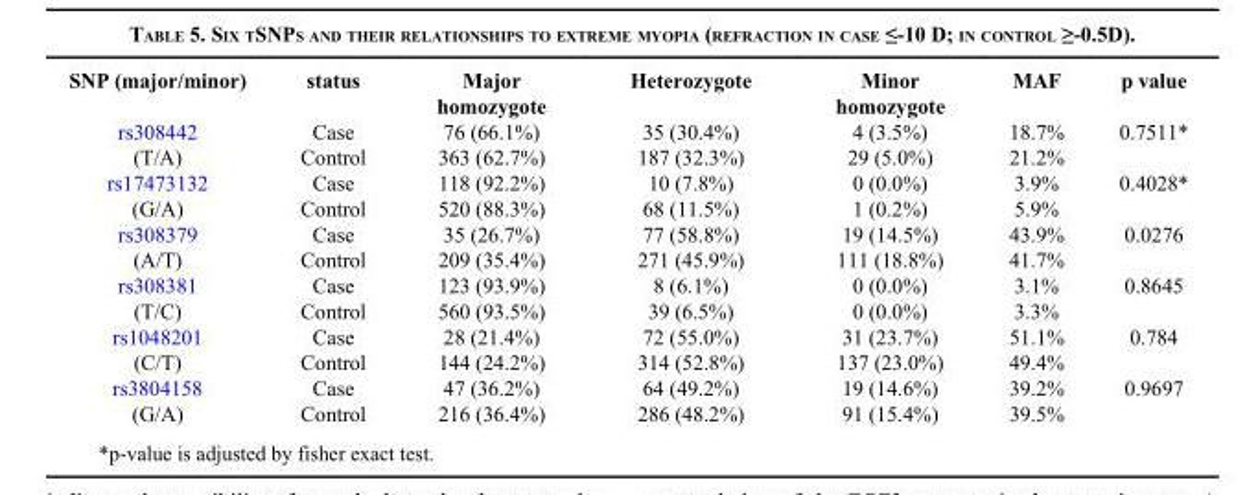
<table><thead><tr><td>SNP (major/minor)</td><td>status</td><td>Major homozygote</td><td>Heterozygote</td><td>Minor homozygote</td><td>MAF</td><td>p value</td></tr></thead><tbody><tr><td>rs308442</td><td>Case</td><td>76 (66.1%)</td><td>35 (30.4%)</td><td>4 (3.5%)</td><td>18.7%</td><td>0.7511*</td></tr><tr><td>(T/A)</td><td>Control</td><td>363 (62.7%)</td><td>187 (32.3%)</td><td>29 (5.0%)</td><td>21.2%</td><td></td></tr><tr><td>rs17473132</td><td>Case</td><td>118 (92.2%)</td><td>10 (7.8%)</td><td>0 (0.0%)</td><td>3.9%</td><td>0.4028*</td></tr><tr><td>(G/A)</td><td>Control</td><td>520 (88.3%)</td><td>68 (11.5%)</td><td>1 (0.2%)</td><td>5.9%</td><td></td></tr><tr><td>rs308379</td><td>Case</td><td>35 (26.7%)</td><td>77 (58.8%)</td><td>19 (14.5%)</td><td>43.9%</td><td>0.0276</td></tr><tr><td>(A/T)</td><td>Control</td><td>209 (35.4%)</td><td>271 (45.9%)</td><td>111 (18.8%)</td><td>41.7%</td><td></td></tr><tr><td>rs308381</td><td>Case</td><td>123 (93.9%)</td><td>8 (6.1%)</td><td>0 (0.0%)</td><td>3.1%</td><td>0.8645</td></tr><tr><td>(T/C)</td><td>Control</td><td>560 (93.5%)</td><td>39 (6.5%)</td><td>0 (0.0%)</td><td>3.3%</td><td></td></tr><tr><td>rs1048201</td><td>Case</td><td>28 (21.4%)</td><td>72 (55.0%)</td><td>31 (23.7%)</td><td>51.1%</td><td>0.784</td></tr><tr><td>(C/T)</td><td>Control</td><td>144 (24.2%)</td><td>314 (52.8%)</td><td>137 (23.0%)</td><td>49.4%</td><td></td></tr><tr><td>rs3804158</td><td>Case</td><td>47 (36.2%)</td><td>64 (49.2%)</td><td>19 (14.6%)</td><td>39.2%</td><td>0.9697</td></tr><tr><td>(G/A)</td><td>Control</td><td>216 (36.4%)</td><td>286 (48.2%)</td><td>91 (15.4%)</td><td>39.5%</td><td></td></tr></tbody></table>